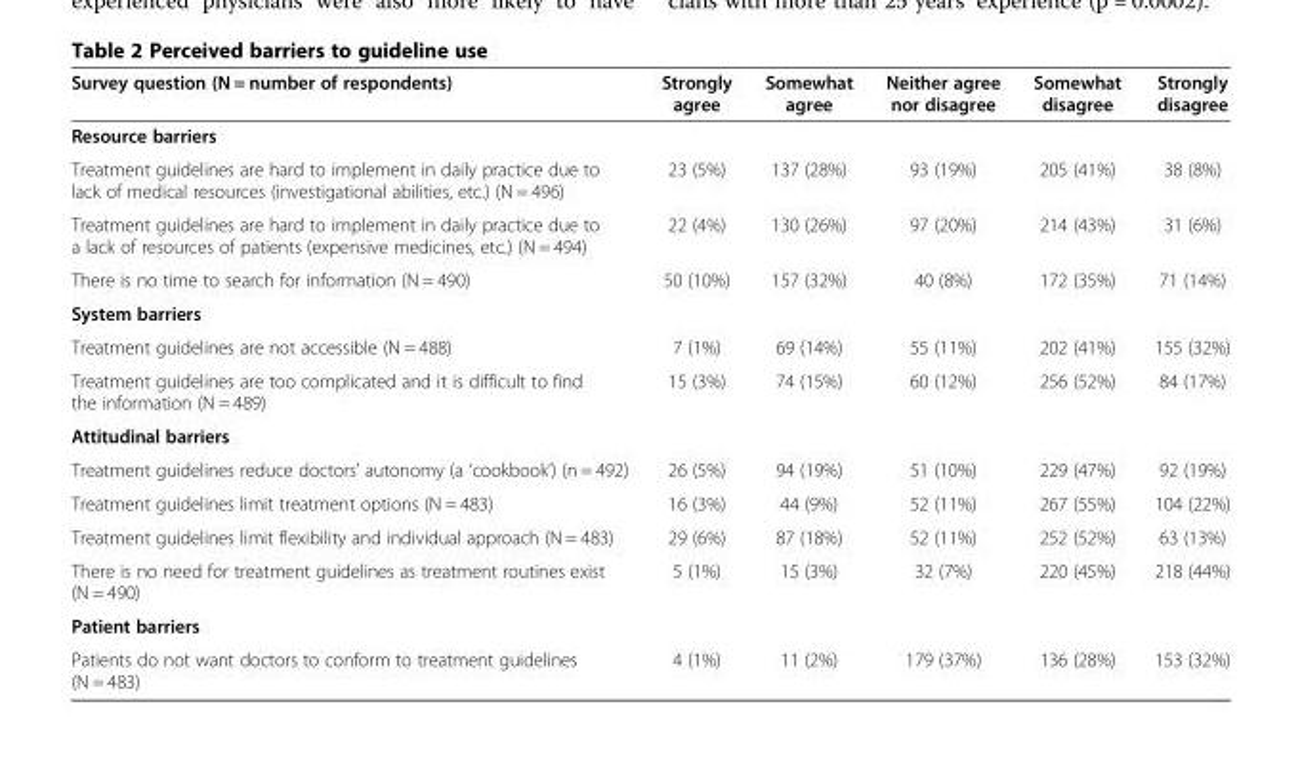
<table><thead><tr><td>Survey question (N = number of respondents)</td><td>Strongly agree</td><td>Somewhat agree</td><td>Neither agree nor disagree</td><td>Somewhat disagree</td><td>Strongly disagree</td></tr></thead><tbody><tr><td colspan="6">Resource barriers</td></tr><tr><td>Treatment guidelines are hard to implement in daily practice due to lack of medical resources (investigational abilities, etc.) (N = 496)</td><td>23 (5%)</td><td>137 (28%)</td><td>93 (19%)</td><td>205 (41%)</td><td>38 (8%)</td></tr><tr><td>Treatment guidelines are hard to implement in daily practice due to a lack of resources of patients (expensive medicines, etc.) (N = 494)</td><td>22 (4%)</td><td>130 (26%)</td><td>97 (20%)</td><td>214 (43%)</td><td>31 (6%)</td></tr><tr><td>There is no time to search for information (N = 490)</td><td>50 (10%)</td><td>157 (32%)</td><td>40 (8%)</td><td>172 (35%)</td><td>71 (14%)</td></tr><tr><td colspan="6">System barriers</td></tr><tr><td>Treatment guidelines are not accessible (N = 488)</td><td>7 (1%)</td><td>69 (14%)</td><td>55 (11%)</td><td>202 (41%)</td><td>155 (32%)</td></tr><tr><td>Treatment guidelines are too complicated and it is difficult to find the information (N = 489)</td><td>15 (3%)</td><td>74 (15%)</td><td>60 (12%)</td><td>256 (52%)</td><td>84 (17%)</td></tr><tr><td colspan="6">Attitudinal barriers</td></tr><tr><td>Treatment guidelines reduce doctors’ autonomy (a ‘cookbook’) (n = 492)</td><td>26 (5%)</td><td>94 (19%)</td><td>51 (10%)</td><td>229 (47%)</td><td>92 (19%)</td></tr><tr><td>Treatment guidelines limit treatment options (N = 483)</td><td>16 (3%)</td><td>44 (9%)</td><td>52 (11%)</td><td>267 (55%)</td><td>104 (22%)</td></tr><tr><td>Treatment guidelines limit flexibility and individual approach (N = 483)</td><td>29 (6%)</td><td>87 (18%)</td><td>52 (11%)</td><td>252 (52%)</td><td>63 (13%)</td></tr><tr><td>There is no need for treatment guidelines as treatment routines exist (N = 490)</td><td>5 (1%)</td><td>15 (3%)</td><td>32 (7%)</td><td>220 (45%)</td><td>218 (44%)</td></tr><tr><td colspan="6">Patient barriers</td></tr><tr><td>Patients do not want doctors to conform to treatment guidelines (N = 483)</td><td>4 (1%)</td><td>11 (2%)</td><td>179 (37%)</td><td>136 (28%)</td><td>153 (32%)</td></tr></tbody></table>